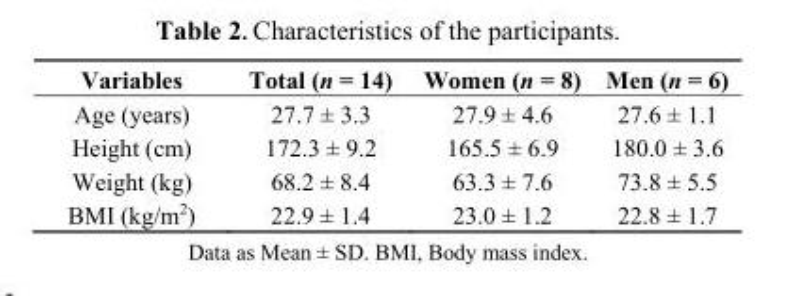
<table><thead><tr><td>Variables</td><td>Total (n = 14)</td><td>Women (n = 8)</td><td>Men (n = 6)</td></tr></thead><tbody><tr><td>Age (years)</td><td>27.7 ± 3.3</td><td>27.9 ± 4.6</td><td>27.6 ± 1.1</td></tr><tr><td>Height (cm)</td><td>172.3 ± 9.2</td><td>165.5 ± 6.9</td><td>180.0 ± 3.6</td></tr><tr><td>Weight (kg)</td><td>68.2 ± 8.4</td><td>63.3 ± 7.6</td><td>73.8 ± 5.5</td></tr><tr><td>BMI (kg/m<sup>2</sup>)</td><td>22.9 ± 1.4</td><td>23.0 ± 1.2</td><td>22.8 ± 1.7</td></tr></tbody></table>